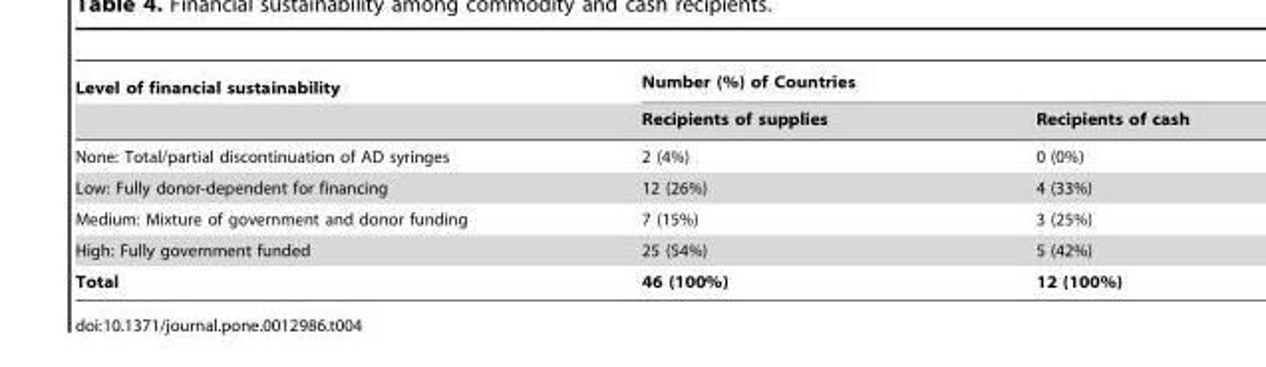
<table><thead><tr><td rowspan="2">Level of financial sustainability</td><td colspan="2">Number (%) of Countries</td></tr><tr><td>Recipients of supplies</td><td>Recipients of cash</td></tr></thead><tbody><tr><td>None: Total/partial discontinuation of AD syringes</td><td>2 (4%)</td><td>0 (0%)</td></tr><tr><td>Low: Fully donor-dependent for financing</td><td>12 (26%)</td><td>4 (33%)</td></tr><tr><td>Medium: Mixture of government and donor funding</td><td>7 (15%)</td><td>3 (25%)</td></tr><tr><td>High: Fully government funded</td><td>25 (54%)</td><td>5 (42%)</td></tr><tr><td>Total</td><td>46 (100%)</td><td>12 (100%)</td></tr></tbody></table>